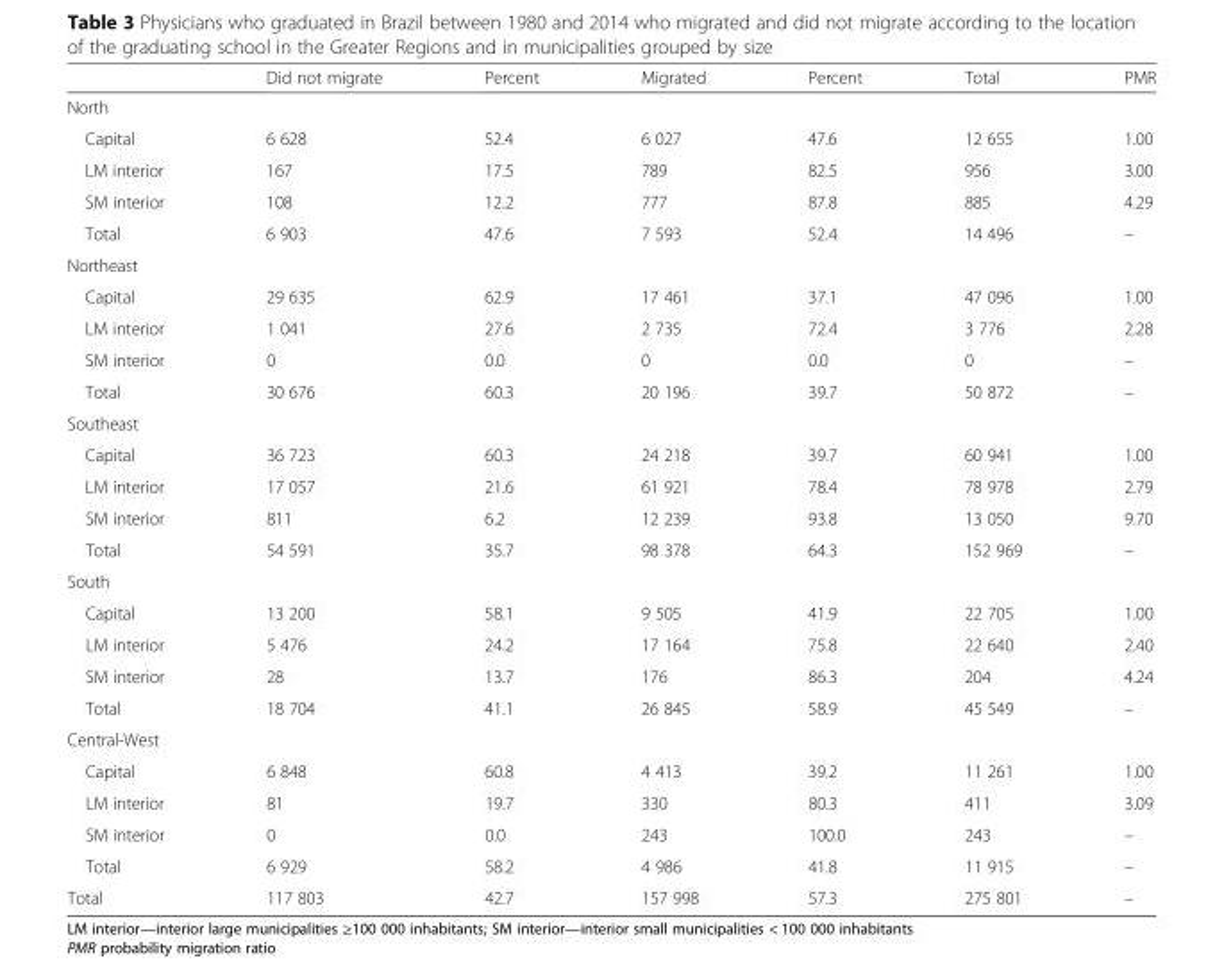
<table><thead><tr><td></td><td>Did not migrate</td><td>Percent</td><td>Migrated</td><td>Percent</td><td>Total</td><td>PMR</td></tr></thead><tbody><tr><td colspan="7">North</td></tr><tr><td>Capital</td><td>6 628</td><td>52.4</td><td>6 027</td><td>47.6</td><td>12 655</td><td>1.00</td></tr><tr><td>LM interior</td><td>167</td><td>17.5</td><td>789</td><td>82.5</td><td>956</td><td>3.00</td></tr><tr><td>SM interior</td><td>108</td><td>12.2</td><td>777</td><td>87.8</td><td>885</td><td>4.29</td></tr><tr><td>Total</td><td>6 903</td><td>47.6</td><td>7 593</td><td>52.4</td><td>14 496</td><td>–</td></tr><tr><td colspan="7">Northeast</td></tr><tr><td>Capital</td><td>29 635</td><td>62.9</td><td>17 461</td><td>37.1</td><td>47 096</td><td>1.00</td></tr><tr><td>LM interior</td><td>1 041</td><td>27.6</td><td>2 735</td><td>72.4</td><td>3 776</td><td>2.28</td></tr><tr><td>SM interior</td><td>0</td><td>0.0</td><td>0</td><td>0.0</td><td>0</td><td>–</td></tr><tr><td>Total</td><td>30 676</td><td>60.3</td><td>20 196</td><td>39.7</td><td>50 872</td><td>–</td></tr><tr><td colspan="7">Southeast</td></tr><tr><td>Capital</td><td>36 723</td><td>60.3</td><td>24 218</td><td>39.7</td><td>60 941</td><td>1.00</td></tr><tr><td>LM interior</td><td>17 057</td><td>21.6</td><td>61 921</td><td>78.4</td><td>78 978</td><td>2.79</td></tr><tr><td>SM interior</td><td>811</td><td>6.2</td><td>12 239</td><td>93.8</td><td>13 050</td><td>9.70</td></tr><tr><td>Total</td><td>54 591</td><td>35.7</td><td>98 378</td><td>64.3</td><td>152 969</td><td>–</td></tr><tr><td colspan="7">South</td></tr><tr><td>Capital</td><td>13 200</td><td>58.1</td><td>9 505</td><td>41.9</td><td>22 705</td><td>1.00</td></tr><tr><td>LM interior</td><td>5 476</td><td>24.2</td><td>17 164</td><td>75.8</td><td>22 640</td><td>2.40</td></tr><tr><td>SM interior</td><td>28</td><td>13.7</td><td>176</td><td>86.3</td><td>204</td><td>4.24</td></tr><tr><td>Total</td><td>18 704</td><td>41.1</td><td>26 845</td><td>58.9</td><td>45 549</td><td>–</td></tr><tr><td colspan="7">Central-West</td></tr><tr><td>Capital</td><td>6 848</td><td>60.8</td><td>4 413</td><td>39.2</td><td>11 261</td><td>1.00</td></tr><tr><td>LM interior</td><td>81</td><td>19.7</td><td>330</td><td>80.3</td><td>411</td><td>3.09</td></tr><tr><td>SM interior</td><td>0</td><td>0.0</td><td>243</td><td>100.0</td><td>243</td><td>–</td></tr><tr><td>Total</td><td>6 929</td><td>58.2</td><td>4 986</td><td>41.8</td><td>11 915</td><td>–</td></tr><tr><td>Total</td><td>117 803</td><td>42.7</td><td>157 998</td><td>57.3</td><td>275 801</td><td>–</td></tr></tbody></table>